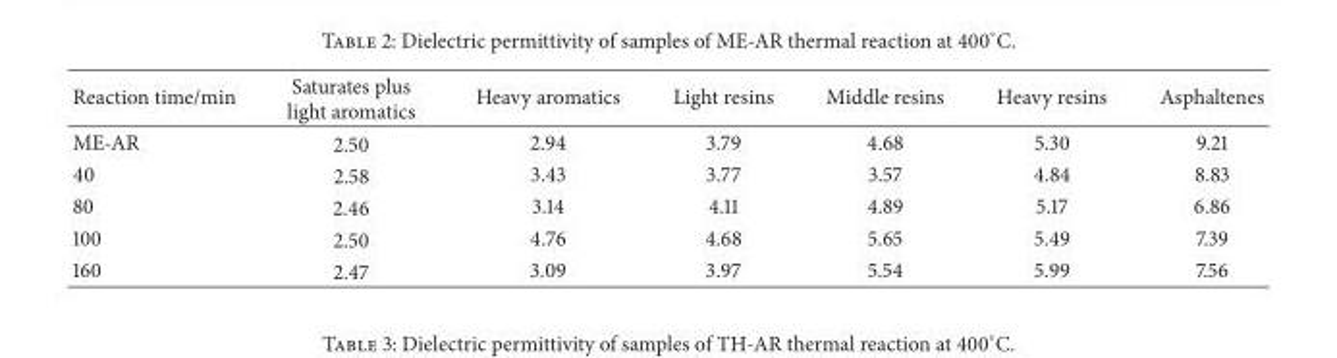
<table><thead><tr><td>Reaction time/min</td><td>Saturates plus light aromatics</td><td>Heavy aromatics</td><td>Light resins</td><td>Middle resins</td><td>Heavy resins</td><td>Asphaltenes</td></tr></thead><tbody><tr><td>ME-AR</td><td>2.50</td><td>2.94</td><td>3.79</td><td>4.68</td><td>5.30</td><td>9.21</td></tr><tr><td>40</td><td>2.58</td><td>3.43</td><td>3.77</td><td>3.57</td><td>4.84</td><td>8.83</td></tr><tr><td>80</td><td>2.46</td><td>3.14</td><td>4.11</td><td>4.89</td><td>5.17</td><td>6.86</td></tr><tr><td>100</td><td>2.50</td><td>4.76</td><td>4.68</td><td>5.65</td><td>5.49</td><td>7.39</td></tr><tr><td>160</td><td>2.47</td><td>3.09</td><td>3.97</td><td>5.54</td><td>5.99</td><td>7.56</td></tr></tbody></table>